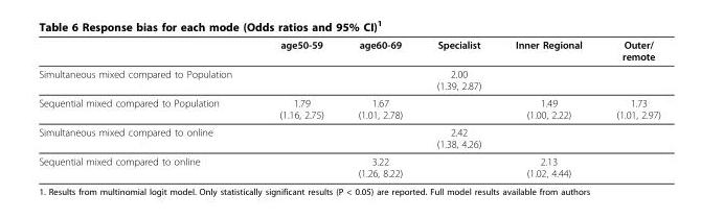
<table><thead><tr><td></td><td>age50-59</td><td>age60-69</td><td>Specialist</td><td>Inner Regional</td><td>Outer/ remote</td></tr></thead><tbody><tr><td>Simultaneous mixed compared to Population</td><td></td><td></td><td>2.00 (1.39, 2.87)</td><td></td><td></td></tr><tr><td>Sequential mixed compared to Population</td><td>1.79 (1.16, 2.75)</td><td>1.67 (1.01, 2.78)</td><td></td><td>1.49 (1.00, 2.22)</td><td>1.73 (1.01, 2.97)</td></tr><tr><td>Simultaneous mixed compared to online</td><td></td><td></td><td>2.42 (1.38, 4.26)</td><td></td><td></td></tr><tr><td>Sequential mixed compared to online</td><td></td><td>3.22 (1.26, 8.22)</td><td></td><td>2.13 (1.02, 4.44)</td><td></td></tr></tbody></table>